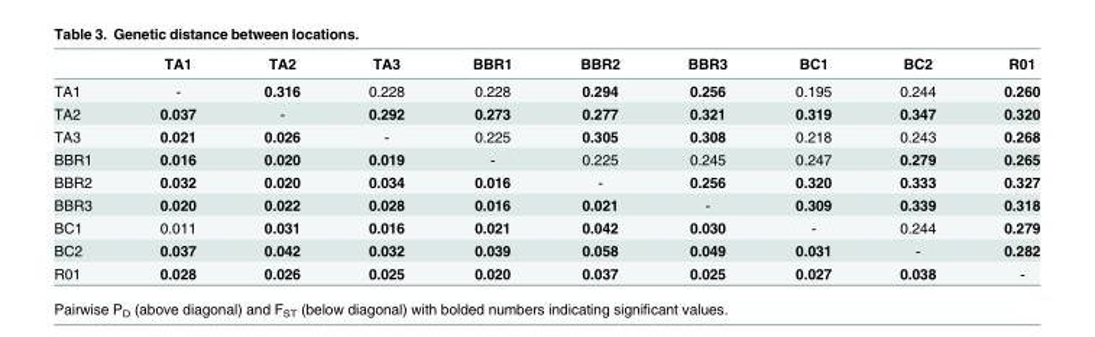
<table><thead><tr><td></td><td>TA1</td><td>TA2</td><td>TA3</td><td>BBR1</td><td>BBR2</td><td>BBR3</td><td>BC1</td><td>BC2</td><td>R01</td></tr></thead><tbody><tr><td>TA1</td><td>-</td><td>0.316</td><td>0.228</td><td>0.228</td><td>0.294</td><td>0.256</td><td>0.195</td><td>0.244</td><td>0.260</td></tr><tr><td>TA2</td><td>0.037</td><td>-</td><td>0.292</td><td>0.273</td><td>0.277</td><td>0.321</td><td>0.319</td><td>0.347</td><td>0.320</td></tr><tr><td>TA3</td><td>0.021</td><td>0.026</td><td>-</td><td>0.225</td><td>0.305</td><td>0.308</td><td>0.218</td><td>0.243</td><td>0.268</td></tr><tr><td>BBR1</td><td>0.016</td><td>0.020</td><td>0.019</td><td>-</td><td>0.225</td><td>0.245</td><td>0.247</td><td>0.279</td><td>0.265</td></tr><tr><td>BBR2</td><td>0.032</td><td>0.020</td><td>0.034</td><td>0.016</td><td>-</td><td>0.256</td><td>0.320</td><td>0.333</td><td>0.327</td></tr><tr><td>BBR3</td><td>0.020</td><td>0.022</td><td>0.028</td><td>0.016</td><td>0.021</td><td>-</td><td>0.309</td><td>0.339</td><td>0.318</td></tr><tr><td>BC1</td><td>0.011</td><td>0.031</td><td>0.016</td><td>0.021</td><td>0.042</td><td>0.030</td><td>-</td><td>0.244</td><td>0.279</td></tr><tr><td>BC2</td><td>0.037</td><td>0.042</td><td>0.032</td><td>0.039</td><td>0.058</td><td>0.049</td><td>0.031</td><td>-</td><td>0.282</td></tr><tr><td>R01</td><td>0.028</td><td>0.026</td><td>0.025</td><td>0.020</td><td>0.037</td><td>0.025</td><td>0.027</td><td>0.038</td><td>-</td></tr></tbody></table>